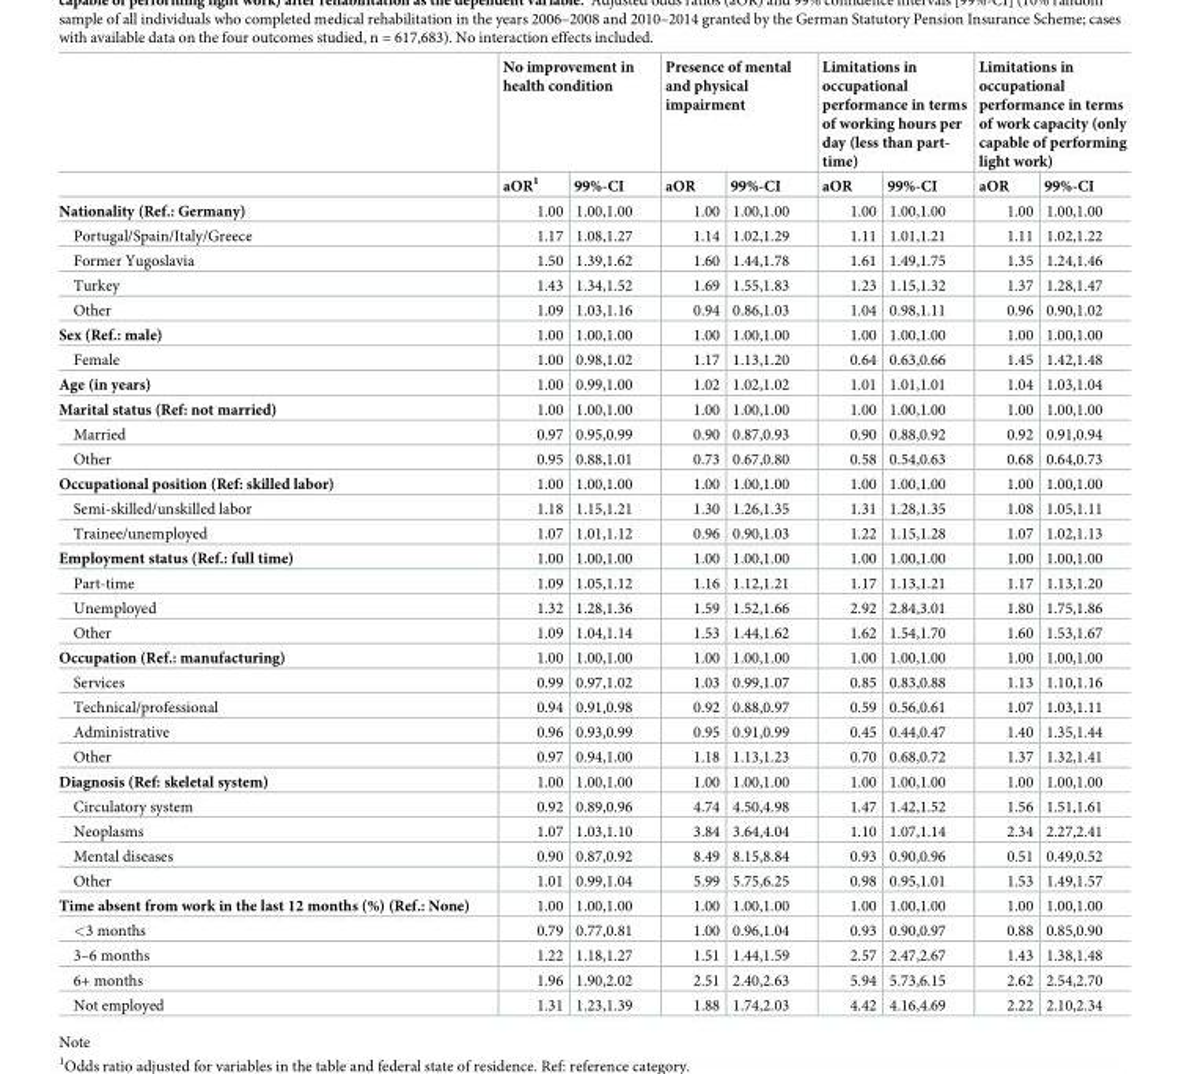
<table><thead><tr><td rowspan="2"></td><td colspan="2">No improvement in health condition</td><td colspan="2">Presence of mental and physical impairment</td><td colspan="2">Limitations in occupational performance in terms of working hours per day (less than part- time)</td><td colspan="2">Limitations in occupational performance in terms of work capacity (only capable of performing light work)</td></tr><tr><td>aOR<sup>1</sup></td><td>99%-CI</td><td>aOR</td><td>99%-CI</td><td>aOR</td><td>99%-CI</td><td>aOR</td><td>99%-CI</td></tr></thead><tbody><tr><td>Nationality (Ref.: Germany)</td><td>1.00</td><td>1.00,1.00</td><td>1.00</td><td>1.00,1.00</td><td>1.00</td><td>1.00,1.00</td><td>1.00</td><td>1.00,1.00</td></tr><tr><td>Portugal/Spain/Italy/Greece</td><td>1.17</td><td>1.08,1.27</td><td>1.14</td><td>1.02,1.29</td><td>1.11</td><td>1.01,1.21</td><td>1.11</td><td>1.02,1.22</td></tr><tr><td>Former Yugoslavia</td><td>1.50</td><td>1.39,1.62</td><td>1.60</td><td>1.44,1.78</td><td>1.61</td><td>1.49,1.75</td><td>1.35</td><td>1.24,1.46</td></tr><tr><td>Turkey</td><td>1.43</td><td>1.34,1.52</td><td>1.69</td><td>1.55,1.83</td><td>1.23</td><td>1.15,1.32</td><td>1.37</td><td>1.28,1.47</td></tr><tr><td>Other</td><td>1.09</td><td>1.03,1.16</td><td>0.94</td><td>0.86,1.03</td><td>1.04</td><td>0.98,1.11</td><td>0.96</td><td>0.90,1.02</td></tr><tr><td>Sex (Ref.: male)</td><td>1.00</td><td>1.00,1.00</td><td>1.00</td><td>1.00,1.00</td><td>1.00</td><td>1.00,1.00</td><td>1.00</td><td>1.00,1.00</td></tr><tr><td>Female</td><td>1.00</td><td>0.98,1.02</td><td>1.17</td><td>1.13,1.20</td><td>0.64</td><td>0.63,0.66</td><td>1.45</td><td>1.42,1.48</td></tr><tr><td>Age (in years)</td><td>1.00</td><td>0.99,1.00</td><td>1.02</td><td>1.02,1.02</td><td>1.01</td><td>1.01,1.01</td><td>1.04</td><td>1.03,1.04</td></tr><tr><td>Marital status (Ref: not married)</td><td>1.00</td><td>1.00,1.00</td><td>1.00</td><td>1.00,1.00</td><td>1.00</td><td>1.00,1.00</td><td>1.00</td><td>1.00,1.00</td></tr><tr><td>Married</td><td>0.97</td><td>0.95,0.99</td><td>0.90</td><td>0.87,0.93</td><td>0.90</td><td>0.88,0.92</td><td>0.92</td><td>0.91,0.94</td></tr><tr><td>Other</td><td>0.95</td><td>0.88,1.01</td><td>0.73</td><td>0.67,0.80</td><td>0.58</td><td>0.54,0.63</td><td>0.68</td><td>0.64,0.73</td></tr><tr><td>Occupational position (Ref: skilled labor)</td><td>1.00</td><td>1.00,1.00</td><td>1.00</td><td>1.00,1.00</td><td>1.00</td><td>1.00,1.00</td><td>1.00</td><td>1.00,1.00</td></tr><tr><td>Semi-skilled/unskilled labor</td><td>1.18</td><td>1.15,1.21</td><td>1.30</td><td>1.26,1.35</td><td>1.31</td><td>1.28,1.35</td><td>1.08</td><td>1.05,1.11</td></tr><tr><td>Trainee/unemployed</td><td>1.07</td><td>1.01,1.12</td><td>0.96</td><td>0.90,1.03</td><td>1.22</td><td>1.15,1.28</td><td>1.07</td><td>1.02,1.13</td></tr><tr><td>Employment status (Ref.: full time)</td><td>1.00</td><td>1.00,1.00</td><td>1.00</td><td>1.00,1.00</td><td>1.00</td><td>1.00,1.00</td><td>1.00</td><td>1.00,1.00</td></tr><tr><td>Part-time</td><td>1.09</td><td>1.05,1.12</td><td>1.16</td><td>1.12,1.21</td><td>1.17</td><td>1.13,1.21</td><td>1.17</td><td>1.13,1.20</td></tr><tr><td>Unemployed</td><td>1.32</td><td>1.28,1.36</td><td>1.59</td><td>1.52,1.66</td><td>2.92</td><td>2.84,3.01</td><td>1.80</td><td>1.75,1.86</td></tr><tr><td>Other</td><td>1.09</td><td>1.04,1.14</td><td>1.53</td><td>1.44,1.62</td><td>1.62</td><td>1.54,1.70</td><td>1.60</td><td>1.53,1.67</td></tr><tr><td>Occupation (Ref.: manufacturing)</td><td>1.00</td><td>1.00,1.00</td><td>1.00</td><td>1.00,1.00</td><td>1.00</td><td>1.00,1.00</td><td>1.00</td><td>1.00,1.00</td></tr><tr><td>Services</td><td>0.99</td><td>0.97,1.02</td><td>1.03</td><td>0.99,1.07</td><td>0.85</td><td>0.83,0.88</td><td>1.13</td><td>1.10,1.16</td></tr><tr><td>Technical/professional</td><td>0.94</td><td>0.91,0.98</td><td>0.92</td><td>0.88,0.97</td><td>0.59</td><td>0.56,0.61</td><td>1.07</td><td>1.03,1.11</td></tr><tr><td>Administrative</td><td>0.96</td><td>0.93,0.99</td><td>0.95</td><td>0.91,0.99</td><td>0.45</td><td>0.44,0.47</td><td>1.40</td><td>1.35,1.44</td></tr><tr><td>Other</td><td>0.97</td><td>0.94,1.00</td><td>1.18</td><td>1.13,1.23</td><td>0.70</td><td>0.68,0.72</td><td>1.37</td><td>1.32,1.41</td></tr><tr><td>Diagnosis (Ref: skeletal system)</td><td>1.00</td><td>1.00,1.00</td><td>1.00</td><td>1.00,1.00</td><td>1.00</td><td>1.00,1.00</td><td>1.00</td><td>1.00,1.00</td></tr><tr><td>Circulatory system</td><td>0.92</td><td>0.89,0.96</td><td>4.74</td><td>4.50,4.98</td><td>1.47</td><td>1.42,1.52</td><td>1.56</td><td>1.51,1.61</td></tr><tr><td>Neoplasms</td><td>1.07</td><td>1.03,1.10</td><td>3.84</td><td>3.64,4.04</td><td>1.10</td><td>1.07,1.14</td><td>2.34</td><td>2.27,2.41</td></tr><tr><td>Mental diseases</td><td>0.90</td><td>0.87,0.92</td><td>8.49</td><td>8.15,8.84</td><td>0.93</td><td>0.90,0.96</td><td>0.51</td><td>0.49,0.52</td></tr><tr><td>Other</td><td>1.01</td><td>0.99,1.04</td><td>5.99</td><td>5.75,6.25</td><td>0.98</td><td>0.95,1.01</td><td>1.53</td><td>1.49,1.57</td></tr><tr><td>Time absent from work in the last 12 months (%) (Ref.: None)</td><td>1.00</td><td>1.00,1.00</td><td>1.00</td><td>1.00,1.00</td><td>1.00</td><td>1.00,1.00</td><td>1.00</td><td>1.00,1.00</td></tr><tr><td>&lt;3 months</td><td>0.79</td><td>0.77,0.81</td><td>1.00</td><td>0.96,1.04</td><td>0.93</td><td>0.90,0.97</td><td>0.88</td><td>0.85,0.90</td></tr><tr><td>3–6 months</td><td>1.22</td><td>1.18,1.27</td><td>1.51</td><td>1.44,1.59</td><td>2.57</td><td>2.47,2.67</td><td>1.43</td><td>1.38,1.48</td></tr><tr><td>6+ months</td><td>1.96</td><td>1.90,2.02</td><td>2.51</td><td>2.40,2.63</td><td>5.94</td><td>5.73,6.15</td><td>2.62</td><td>2.54,2.70</td></tr><tr><td>Not employed</td><td>1.31</td><td>1.23,1.39</td><td>1.88</td><td>1.74,2.03</td><td>4.42</td><td>4.16,4.69</td><td>2.22</td><td>2.10,2.34</td></tr></tbody></table>